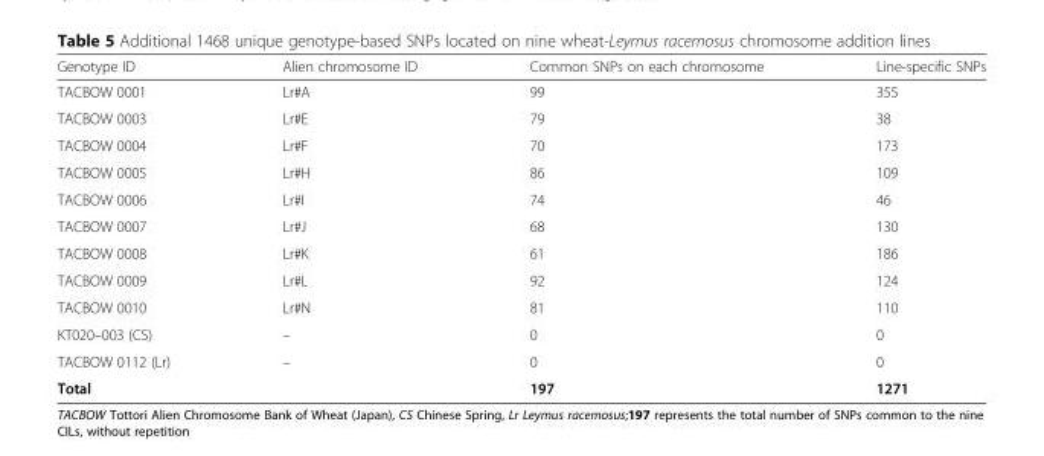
<table><thead><tr><td>Genotype ID</td><td>Alien chromosome ID</td><td>Common SNPs on each chromosome</td><td>Line-specific SNPs</td></tr></thead><tbody><tr><td>TACBOW 0001</td><td>Lr#A</td><td>99</td><td>355</td></tr><tr><td>TACBOW 0003</td><td>Lr#E</td><td>79</td><td>38</td></tr><tr><td>TACBOW 0004</td><td>Lr#F</td><td>70</td><td>173</td></tr><tr><td>TACBOW 0005</td><td>Lr#H</td><td>86</td><td>109</td></tr><tr><td>TACBOW 0006</td><td>Lr#I</td><td>74</td><td>46</td></tr><tr><td>TACBOW 0007</td><td>Lr#J</td><td>68</td><td>130</td></tr><tr><td>TACBOW 0008</td><td>Lr#K</td><td>61</td><td>186</td></tr><tr><td>TACBOW 0009</td><td>Lr#L</td><td>92</td><td>124</td></tr><tr><td>TACBOW 0010</td><td>Lr#N</td><td>81</td><td>110</td></tr><tr><td>KT020–003 (CS)</td><td>–</td><td>0</td><td>0</td></tr><tr><td>TACBOW 0112 (Lr)</td><td>–</td><td>0</td><td>0</td></tr><tr><td>Total</td><td></td><td>197</td><td>1271</td></tr></tbody></table>